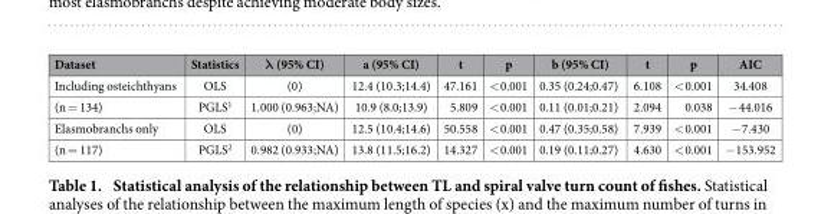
<table><thead><tr><td>Dataset</td><td>Statistics</td><td>λ (95% CI)</td><td>a (95% CI)</td><td>t</td><td>p</td><td>b (95% CI)</td><td>t</td><td>p</td><td>AIC</td></tr></thead><tbody><tr><td>Including osteichthyans</td><td>OLS</td><td>(0)</td><td>12.4 (10.3;14.4)</td><td>47.161</td><td>&lt; 0.001</td><td>0.35 (0.24;0.47)</td><td>6.108</td><td>&lt; 0.001</td><td>34.408</td></tr><tr><td>(n = 134)</td><td>PGLS<sup>1</sup></td><td>1.000 (0.963;NA)</td><td>10.9 (8.0;13.9)</td><td>5.809</td><td>&lt; 0.001</td><td>0.11 (0.01;0.21)</td><td>2.094</td><td>0.038</td><td>− 44.016</td></tr><tr><td>Elasmobranchs only</td><td>OLS</td><td>(0)</td><td>12.5 (10.4;14.6)</td><td>50.558</td><td>&lt; 0.001</td><td>0.47 (0.35;0.58)</td><td>7.939</td><td>&lt; 0.001</td><td>− 7.430</td></tr><tr><td>(n = 117)</td><td>PGLS<sup>2</sup></td><td>0.982 (0.933;NA)</td><td>13.8 (11.5;16.2)</td><td>14.327</td><td>&lt; 0.001</td><td>0.19 (0.11;0.27)</td><td>4.630</td><td>&lt; 0.001</td><td>− 153.952</td></tr></tbody></table>